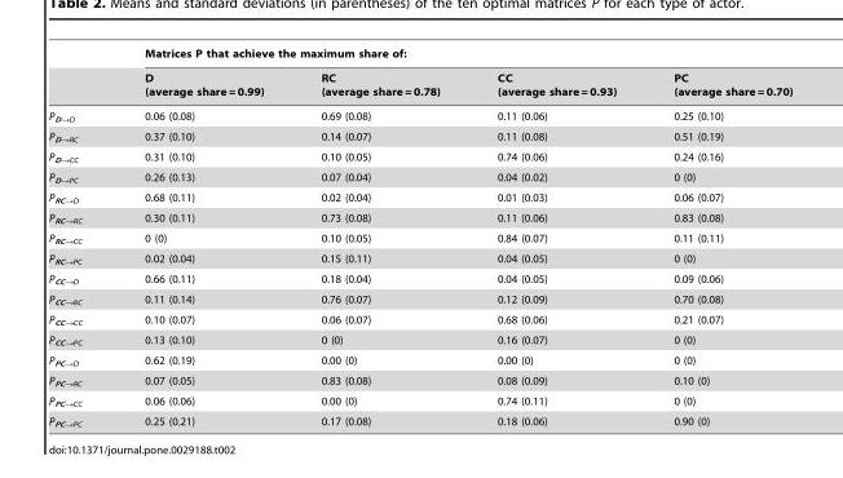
<table><thead><tr><td rowspan="2"></td><td colspan="4">Matrices P that achieve the maximum share of:</td></tr><tr><td>D (average share = 0.99)</td><td>RC (average share = 0.78)</td><td>CC (average share = 0.93)</td><td>PC (average share = 0.70)</td></tr></thead><tbody><tr><td>P<sub>D→D</sub></td><td>0.06 (0.08)</td><td>0.69 (0.08)</td><td>0.11 (0.06)</td><td>0.25 (0.10)</td></tr><tr><td>P<sub>D→RC</sub></td><td>0.37 (0.10)</td><td>0.14 (0.07)</td><td>0.11 (0.08)</td><td>0.51 (0.19)</td></tr><tr><td>P<sub>D→CC</sub></td><td>0.31 (0.10)</td><td>0.10 (0.05)</td><td>0.74 (0.06)</td><td>0.24 (0.16)</td></tr><tr><td>P<sub>D→PC</sub></td><td>0.26 (0.13)</td><td>0.07 (0.04)</td><td>0.04 (0.02)</td><td>0 (0)</td></tr><tr><td>P<sub>RC→D</sub></td><td>0.68 (0.11)</td><td>0.02 (0.04)</td><td>0.01 (0.03)</td><td>0.06 (0.07)</td></tr><tr><td>P<sub>RC→RC</sub></td><td>0.30 (0.11)</td><td>0.73 (0.08)</td><td>0.11 (0.06)</td><td>0.83 (0.08)</td></tr><tr><td>P<sub>RC→CC</sub></td><td>0 (0)</td><td>0.10 (0.05)</td><td>0.84 (0.07)</td><td>0.11 (0.11)</td></tr><tr><td>P<sub>RC→PC</sub></td><td>0.02 (0.04)</td><td>0.15 (0.11)</td><td>0.04 (0.05)</td><td>0 (0)</td></tr><tr><td>P<sub>CC→D</sub></td><td>0.66 (0.11)</td><td>0.18 (0.04)</td><td>0.04 (0.05)</td><td>0.09 (0.06)</td></tr><tr><td>P<sub>CC→RC</sub></td><td>0.11 (0.14)</td><td>0.76 (0.07)</td><td>0.12 (0.09)</td><td>0.70 (0.08)</td></tr><tr><td>P<sub>CC→CC</sub></td><td>0.10 (0.07)</td><td>0.06 (0.07)</td><td>0.68 (0.06)</td><td>0.21 (0.07)</td></tr><tr><td>P<sub>CC→PC</sub></td><td>0.13 (0.10)</td><td>0 (0)</td><td>0.16 (0.07)</td><td>0 (0)</td></tr><tr><td>P<sub>PC→D</sub></td><td>0.62 (0.19)</td><td>0.00 (0)</td><td>0.00 (0)</td><td>0 (0)</td></tr><tr><td>P<sub>PC→RC</sub></td><td>0.07 (0.05)</td><td>0.83 (0.08)</td><td>0.08 (0.09)</td><td>0.10 (0)</td></tr><tr><td>P<sub>PC→CC</sub></td><td>0.06 (0.06)</td><td>0.00 (0)</td><td>0.74 (0.11)</td><td>0 (0)</td></tr><tr><td>P<sub>PC→PC</sub></td><td>0.25 (0.21)</td><td>0.17 (0.08)</td><td>0.18 (0.06)</td><td>0.90 (0)</td></tr></tbody></table>